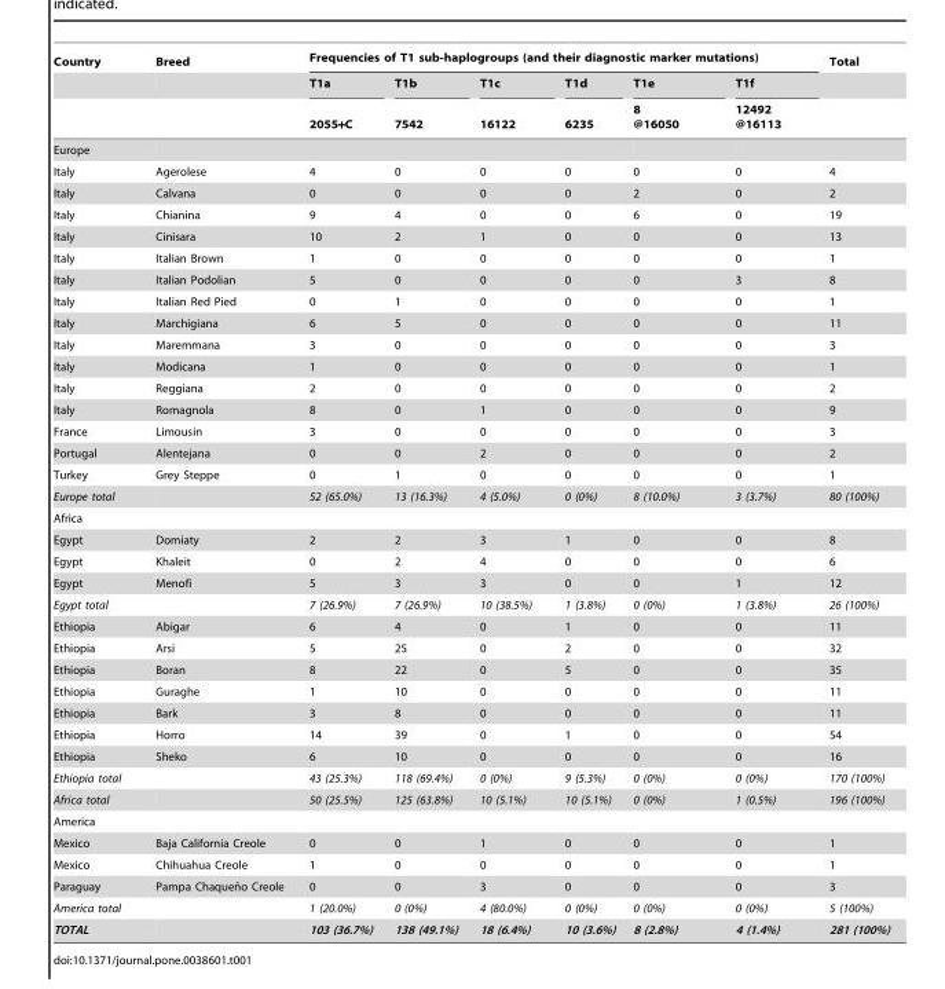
<table><thead><tr><td rowspan="3">Country</td><td rowspan="3">Breed</td><td colspan="6">Frequencies of T1 sub-haplogroups (and their diagnostic marker mutations)</td><td rowspan="3">Total</td></tr><tr><td rowspan="2">T1a 2055+C</td><td rowspan="2">T1b 7542</td><td rowspan="2">T1c 16122</td><td rowspan="2">T1d 6235</td><td rowspan="2">T1e 8 @16050</td><td rowspan="2">T1f 12492 @16113</td></tr><tr></tr></thead><tbody><tr><td colspan="9">Europe</td></tr><tr><td>Italy</td><td>Agerolese</td><td>4</td><td>0</td><td>0</td><td>0</td><td>0</td><td>0</td><td>4</td></tr><tr><td>Italy</td><td>Calvana</td><td>0</td><td>0</td><td>0</td><td>0</td><td>2</td><td>0</td><td>2</td></tr><tr><td>Italy</td><td>Chianina</td><td>9</td><td>4</td><td>0</td><td>0</td><td>6</td><td>0</td><td>19</td></tr><tr><td>Italy</td><td>Cinisara</td><td>10</td><td>2</td><td>1</td><td>0</td><td>0</td><td>0</td><td>13</td></tr><tr><td>Italy</td><td>Italian Brown</td><td>1</td><td>0</td><td>0</td><td>0</td><td>0</td><td>0</td><td>1</td></tr><tr><td>Italy</td><td>Italian Podolian</td><td>5</td><td>0</td><td>0</td><td>0</td><td>0</td><td>3</td><td>8</td></tr><tr><td>Italy</td><td>Italian Red Pied</td><td>0</td><td>1</td><td>0</td><td>0</td><td>0</td><td>0</td><td>1</td></tr><tr><td>Italy</td><td>Marchigiana</td><td>6</td><td>5</td><td>0</td><td>0</td><td>0</td><td>0</td><td>11</td></tr><tr><td>Italy</td><td>Maremmana</td><td>3</td><td>0</td><td>0</td><td>0</td><td>0</td><td>0</td><td>3</td></tr><tr><td>Italy</td><td>Modicana</td><td>1</td><td>0</td><td>0</td><td>0</td><td>0</td><td>0</td><td>1</td></tr><tr><td>Italy</td><td>Reggiana</td><td>2</td><td>0</td><td>0</td><td>0</td><td>0</td><td>0</td><td>2</td></tr><tr><td>Italy</td><td>Romagnola</td><td>8</td><td>0</td><td>1</td><td>0</td><td>0</td><td>0</td><td>9</td></tr><tr><td>France</td><td>Limousin</td><td>3</td><td>0</td><td>0</td><td>0</td><td>0</td><td>0</td><td>3</td></tr><tr><td>Portugal</td><td>Alentejana</td><td>0</td><td>0</td><td>2</td><td>0</td><td>0</td><td>0</td><td>2</td></tr><tr><td>Turkey</td><td>Grey Steppe</td><td>0</td><td>1</td><td>0</td><td>0</td><td>0</td><td>0</td><td>1</td></tr><tr><td>Europe total</td><td></td><td>52 (65.0%)</td><td>13 (16.3%)</td><td>4 (5.0%)</td><td>0 (0%)</td><td>8 (10.0%)</td><td>3 (3.7%)</td><td>80 (100%)</td></tr><tr><td colspan="9">Africa</td></tr><tr><td>Egypt</td><td>Domiaty</td><td>2</td><td>2</td><td>3</td><td>1</td><td>0</td><td>0</td><td>8</td></tr><tr><td>Egypt</td><td>Khaleit</td><td>0</td><td>2</td><td>4</td><td>0</td><td>0</td><td>0</td><td>6</td></tr><tr><td>Egypt</td><td>Menofi</td><td>5</td><td>3</td><td>3</td><td>0</td><td>0</td><td>1</td><td>12</td></tr><tr><td>Egypt total</td><td></td><td>7 (26.9%)</td><td>7 (26.9%)</td><td>10 (38.5%)</td><td>1 (3.8%)</td><td>0 (0%)</td><td>1 (3.8%)</td><td>26 (100%)</td></tr><tr><td>Ethiopia</td><td>Abigar</td><td>6</td><td>4</td><td>0</td><td>1</td><td>0</td><td>0</td><td>11</td></tr><tr><td>Ethiopia</td><td>Arsi</td><td>5</td><td>25</td><td>0</td><td>2</td><td>0</td><td>0</td><td>32</td></tr><tr><td>Ethiopia</td><td>Boran</td><td>8</td><td>22</td><td>0</td><td>5</td><td>0</td><td>0</td><td>35</td></tr><tr><td>Ethiopia</td><td>Guraghe</td><td>1</td><td>10</td><td>0</td><td>0</td><td>0</td><td>0</td><td>11</td></tr><tr><td>Ethiopia</td><td>Bark</td><td>3</td><td>8</td><td>0</td><td>0</td><td>0</td><td>0</td><td>11</td></tr><tr><td>Ethiopia</td><td>Horro</td><td>14</td><td>39</td><td>0</td><td>1</td><td>0</td><td>0</td><td>54</td></tr><tr><td>Ethiopia</td><td>Sheko</td><td>6</td><td>10</td><td>0</td><td>0</td><td>0</td><td>0</td><td>16</td></tr><tr><td>Ethiopia total</td><td></td><td>43 (25.3%)</td><td>118 (69.4%)</td><td>0 (0%)</td><td>9 (5.3%)</td><td>0 (0%)</td><td>0 (0%)</td><td>170 (100%)</td></tr><tr><td>Africa total</td><td></td><td>50 (25.5%)</td><td>125 (63.8%)</td><td>10 (5.1%)</td><td>10 (5.1%)</td><td>0 (0%)</td><td>1 (0.5%)</td><td>196 (100%)</td></tr><tr><td colspan="9">America</td></tr><tr><td>Mexico</td><td>Baja California Creole</td><td>0</td><td>0</td><td>1</td><td>0</td><td>0</td><td>0</td><td>1</td></tr><tr><td>Mexico</td><td>Chihuahua Creole</td><td>1</td><td>0</td><td>0</td><td>0</td><td>0</td><td>0</td><td>1</td></tr><tr><td>Paraguay</td><td>Pampa Chaquen˜o Creole</td><td>0</td><td>0</td><td>3</td><td>0</td><td>0</td><td>0</td><td>3</td></tr><tr><td>America total</td><td></td><td>1 (20.0%)</td><td>0 (0%)</td><td>4 (80.0%)</td><td>0 (0%)</td><td>0 (0%)</td><td>0 (0%)</td><td>5 (100%)</td></tr><tr><td>TOTAL</td><td></td><td>103 (36.7%)</td><td>138 (49.1%)</td><td>18 (6.4%)</td><td>10 (3.6%)</td><td>8 (2.8%)</td><td>4 (1.4%)</td><td>281 (100%)</td></tr></tbody></table>